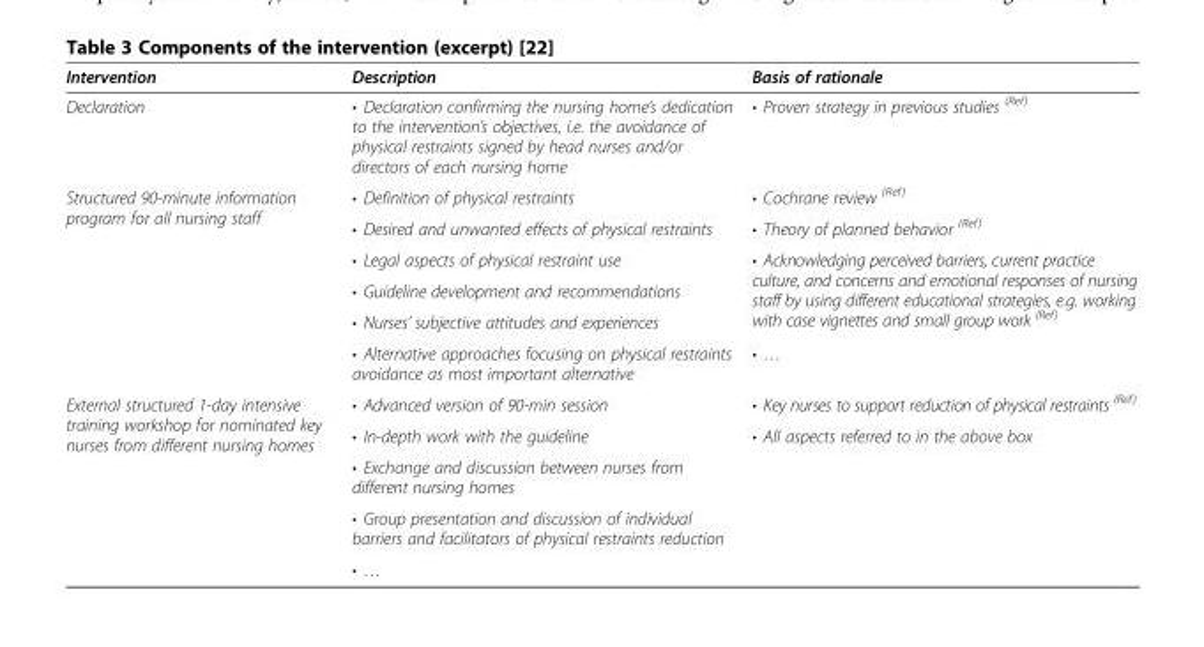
<table><thead><tr><td>Intervention</td><td>Description</td><td>Basis of rationale</td></tr></thead><tbody><tr><td>Declaration</td><td>• Declaration confirming the nursing home’s dedication to the intervention’s objectives, i.e. the avoidance of physical restraints signed by head nurses and/or directors of each nursing home</td><td>• Proven strategy in previous studies <sup>(Ref)</sup></td></tr><tr><td rowspan="6">Structured 90-minute information program for all nursing staff</td><td>• Definition of physical restraints</td><td>• Cochrane review <sup>(Ref)</sup></td></tr><tr><td>• Desired and unwanted effects of physical restraints</td><td>• Theory of planned behavior <sup>(Ref)</sup></td></tr><tr><td>• Legal aspects of physical restraint use</td><td rowspan="3">• Acknowledging perceived barriers, current practice culture, and concerns and emotional responses of nursing staff by using different educational strategies, e.g. working with case vignettes and small group work <sup>(Ref)</sup></td></tr><tr><td>• Guideline development and recommendations</td></tr><tr><td>• Nurses’ subjective attitudes and experiences</td></tr><tr><td>• Alternative approaches focusing on physical restraints avoidance as most important alternative</td><td>• …</td></tr><tr><td rowspan="5">External structured 1-day intensive training workshop for nominated key nurses from different nursing homes</td><td>• Advanced version of 90-min session</td><td>• Key nurses to support reduction of physical restraints <sup>(Ref)</sup></td></tr><tr><td>• In-depth work with the guideline</td><td rowspan="4">• All aspects referred to in the above box</td></tr><tr><td>• Exchange and discussion between nurses from different nursing homes</td></tr><tr><td>• Group presentation and discussion of individual barriers and facilitators of physical restraints reduction</td></tr><tr><td>• …</td></tr></tbody></table>